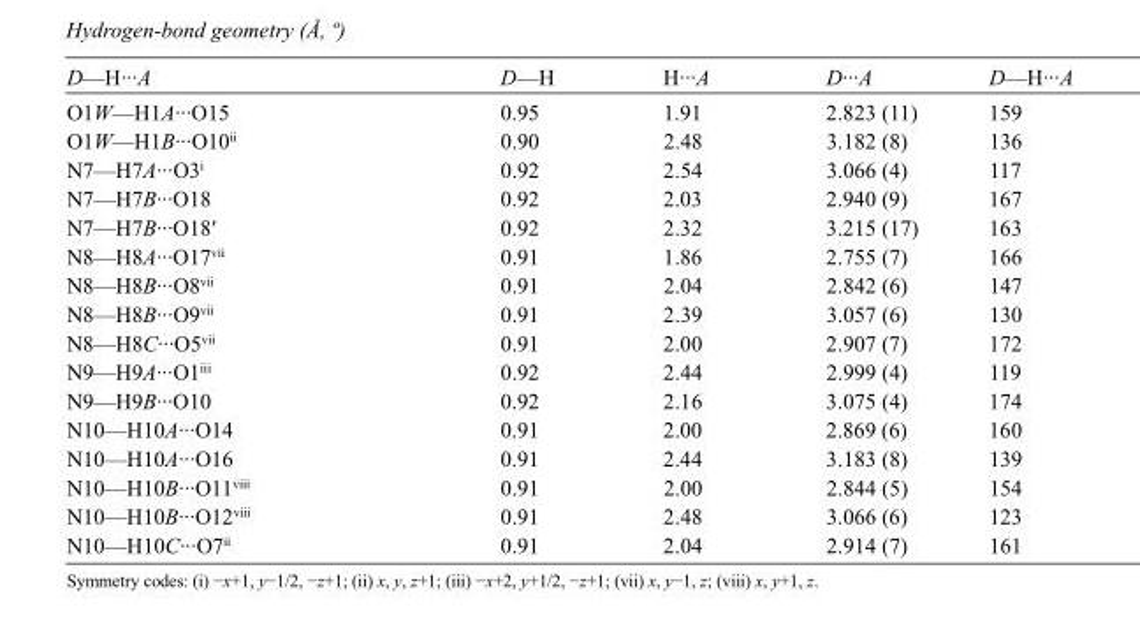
<table><tbody><tr><td>D—H···A</td><td>D—H</td><td>H···A</td><td>D···A</td><td>D—H···A</td></tr><tr><td>O1W—H1A···O15</td><td>0.95</td><td>1.91</td><td>2.823 (11)</td><td>159</td></tr><tr><td>O1W—H1B···O10<sup>ii</sup></td><td>0.90</td><td>2.48</td><td>3.182 (8)</td><td>136</td></tr><tr><td>N7—H7A···O3<sup>i</sup></td><td>0.92</td><td>2.54</td><td>3.066 (4)</td><td>117</td></tr><tr><td>N7—H7B···O18</td><td>0.92</td><td>2.03</td><td>2.940 (9)</td><td>167</td></tr><tr><td>N7—H7B···O18′</td><td>0.92</td><td>2.32</td><td>3.215 (17)</td><td>163</td></tr><tr><td>N8—H8A···O17<sup>vii</sup></td><td>0.91</td><td>1.86</td><td>2.755 (7)</td><td>166</td></tr><tr><td>N8—H8B···O8<sup>vii</sup></td><td>0.91</td><td>2.04</td><td>2.842 (6)</td><td>147</td></tr><tr><td>N8—H8B···O9<sup>vii</sup></td><td>0.91</td><td>2.39</td><td>3.057 (6)</td><td>130</td></tr><tr><td>N8—H8C···O5<sup>vii</sup></td><td>0.91</td><td>2.00</td><td>2.907 (7)</td><td>172</td></tr><tr><td>N9—H9A···O1<sup>iii</sup></td><td>0.92</td><td>2.44</td><td>2.999 (4)</td><td>119</td></tr><tr><td>N9—H9B···O10</td><td>0.92</td><td>2.16</td><td>3.075 (4)</td><td>174</td></tr><tr><td>N10—H10A···O14</td><td>0.91</td><td>2.00</td><td>2.869 (6)</td><td>160</td></tr><tr><td>N10—H10A···O16</td><td>0.91</td><td>2.44</td><td>3.183 (8)</td><td>139</td></tr><tr><td>N10—H10B···O11<sup>viii</sup></td><td>0.91</td><td>2.00</td><td>2.844 (5)</td><td>154</td></tr><tr><td>N10—H10B···O12<sup>viii</sup></td><td>0.91</td><td>2.48</td><td>3.066 (6)</td><td>123</td></tr><tr><td>N10—H10C···O7<sup>ii</sup></td><td>0.91</td><td>2.04</td><td>2.914 (7)</td><td>161</td></tr></tbody></table>